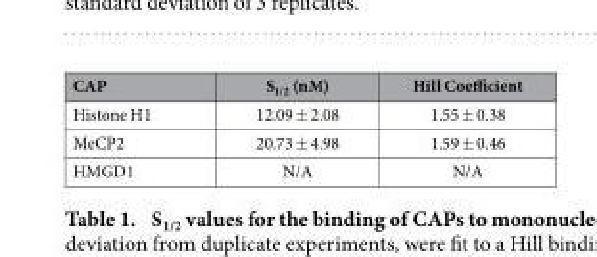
<table><thead><tr><td>CAP</td><td>S<sub>1/2</sub> (nM)</td><td>Hill Coefficient</td></tr></thead><tbody><tr><td>Histone H1</td><td>12.09 ± 2.08</td><td>1.55 ± 0.38</td></tr><tr><td>MeCP2</td><td>20.73 ± 4.98</td><td>1.59 ± 0.46</td></tr><tr><td>HMGD1</td><td>N/A</td><td>N/A</td></tr></tbody></table>